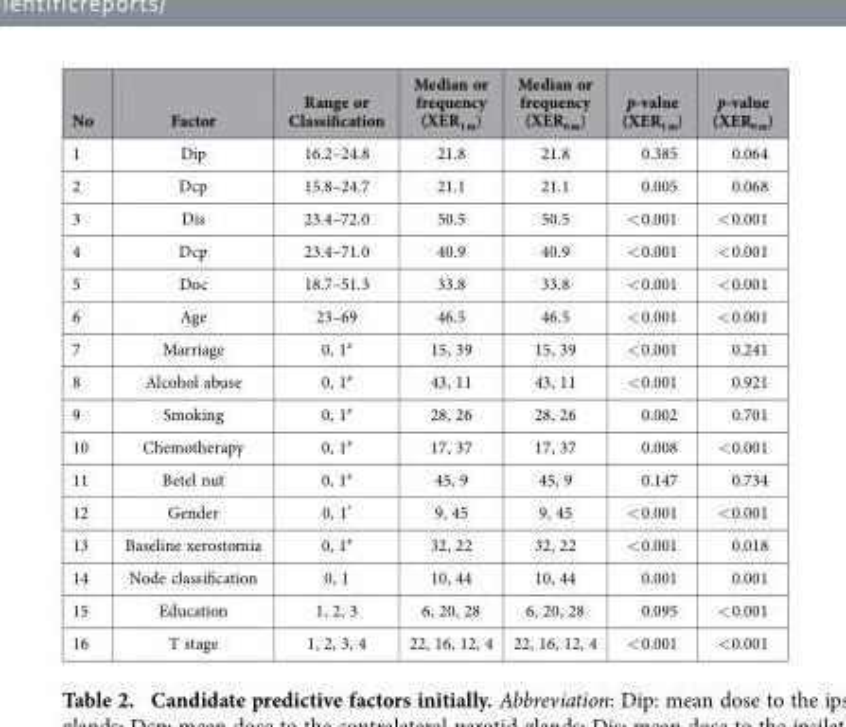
<table><thead><tr><td>No</td><td>Factor</td><td>Range or Classification</td><td>Median or frequency (XER<sub>1 m</sub>)</td><td>Median or frequency (XER<sub>6 m</sub>)</td><td>p-value (XER<sub>1 m</sub>)</td><td>p-value (XER<sub>6 m</sub>)</td></tr></thead><tbody><tr><td>1</td><td>Dip</td><td>16.2–24.8</td><td>21.8</td><td>21.8</td><td>0.385</td><td>0.064</td></tr><tr><td>2</td><td>Dcp</td><td>15.8–24.7</td><td>21.1</td><td>21.1</td><td>0.005</td><td>0.068</td></tr><tr><td>3</td><td>Dis</td><td>23.4–72.0</td><td>50.5</td><td>50.5</td><td>&lt; 0.001</td><td>&lt; 0.001</td></tr><tr><td>4</td><td>Dcp</td><td>23.4–71.0</td><td>40.9</td><td>40.9</td><td>&lt; 0.001</td><td>&lt; 0.001</td></tr><tr><td>5</td><td>Doc</td><td>18.7–51.3</td><td>33.8</td><td>33.8</td><td>&lt; 0.001</td><td>&lt; 0.001</td></tr><tr><td>6</td><td>Age</td><td>23–69</td><td>46.5</td><td>46.5</td><td>&lt; 0.001</td><td>&lt; 0.001</td></tr><tr><td>7</td><td>Marriage</td><td>0, 1<sup>#</sup></td><td>15, 39</td><td>15, 39</td><td>&lt; 0.001</td><td>0.241</td></tr><tr><td>8</td><td>Alcohol abuse</td><td>0, 1<sup>#</sup></td><td>43, 11</td><td>43, 11</td><td>&lt; 0.001</td><td>0.921</td></tr><tr><td>9</td><td>Smoking</td><td>0, 1<sup>#</sup></td><td>28, 26</td><td>28, 26</td><td>0.002</td><td>0.701</td></tr><tr><td>10</td><td>Chemotherapy</td><td>0, 1<sup>#</sup></td><td>17, 37</td><td>17, 37</td><td>0.008</td><td>&lt; 0.001</td></tr><tr><td>11</td><td>Betel nut</td><td>0, 1<sup>#</sup></td><td>45, 9</td><td>45, 9</td><td>0.147</td><td>0.734</td></tr><tr><td>12</td><td>Gender</td><td>0, 1*</td><td>9, 45</td><td>9, 45</td><td>&lt; 0.001</td><td>&lt; 0.001</td></tr><tr><td>13</td><td>Baseline xerostomia</td><td>0, 1<sup>#</sup></td><td>32, 22</td><td>32, 22</td><td>&lt; 0.001</td><td>0.018</td></tr><tr><td>14</td><td>Node classification</td><td>0, 1</td><td>10, 44</td><td>10, 44</td><td>0.001</td><td>0.001</td></tr><tr><td>15</td><td>Education</td><td>1, 2, 3</td><td>6, 20, 28</td><td>6, 20, 28</td><td>0.095</td><td>&lt; 0.001</td></tr><tr><td>16</td><td>T stage</td><td>1, 2, 3, 4</td><td>22, 16, 12, 4</td><td>22, 16, 12, 4</td><td>&lt; 0.001</td><td>&lt; 0.001</td></tr></tbody></table>